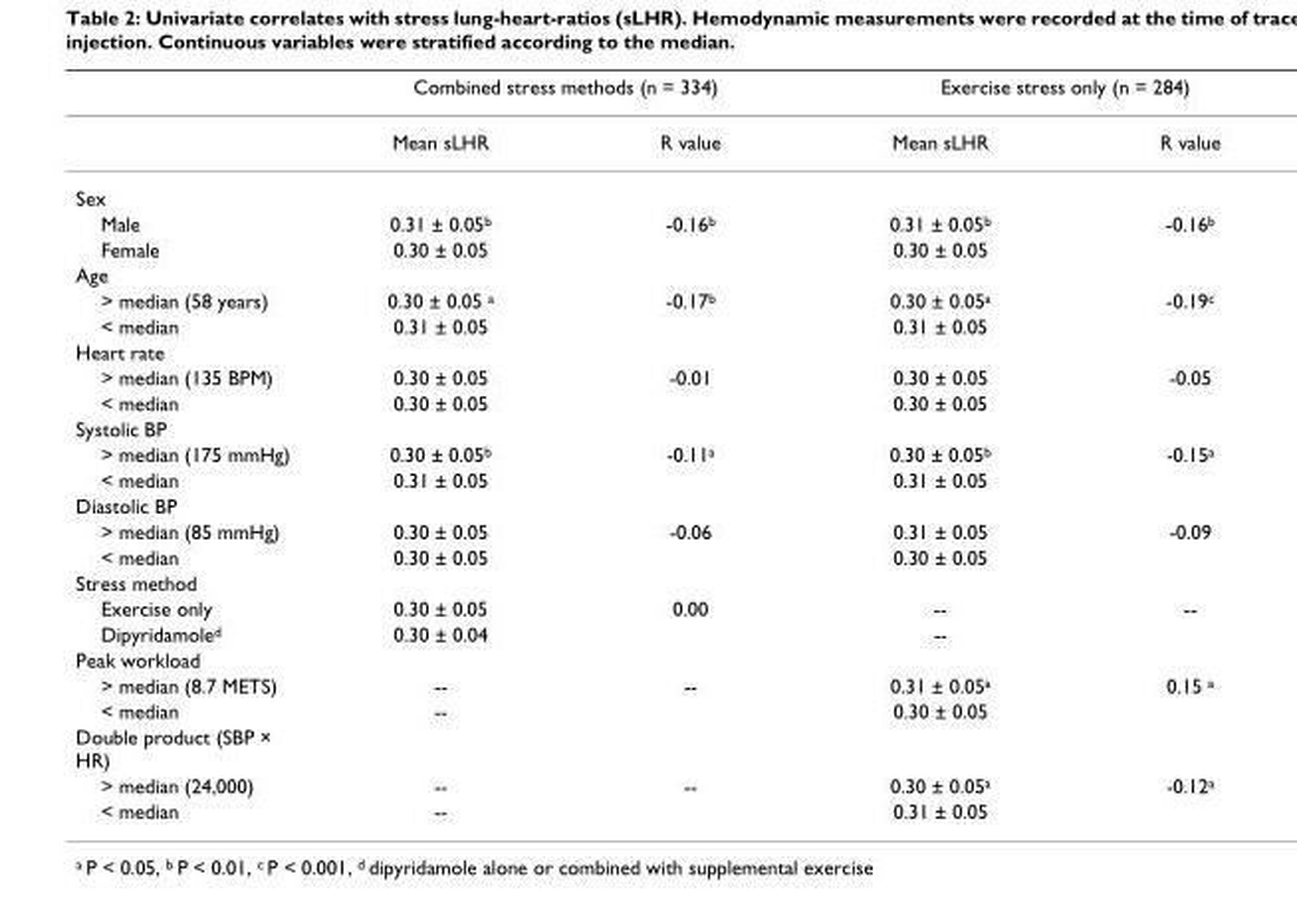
<table><thead><tr><td rowspan="2"></td><td colspan="2">Combined stress methods (n = 334)</td><td colspan="2">Exercise stress only (n = 284)</td></tr><tr><td>Mean sLHR</td><td>R value</td><td>Mean sLHR</td><td>R value</td></tr></thead><tbody><tr><td colspan="5">Sex</td></tr><tr><td>Male</td><td>0.31 ± 0.05<sup>b</sup></td><td>-0.16<sup>b</sup></td><td>0.31 ± 0.05<sup>b</sup></td><td>-0.16<sup>b</sup></td></tr><tr><td>Female</td><td>0.30 ± 0.05</td><td></td><td>0.30 ± 0.05</td><td></td></tr><tr><td colspan="5">Age</td></tr><tr><td>&gt; median (58 years)</td><td>0.30 ± 0.05 <sup>a</sup></td><td>-0.17<sup>b</sup></td><td>0.30 ± 0.05<sup>a</sup></td><td>-0.19<sup>c</sup></td></tr><tr><td>&lt; median</td><td>0.31 ± 0.05</td><td></td><td>0.31 ± 0.05</td><td></td></tr><tr><td colspan="5">Heart rate</td></tr><tr><td>&gt; median (135 BPM)</td><td>0.30 ± 0.05</td><td>-0.01</td><td>0.30 ± 0.05</td><td>-0.05</td></tr><tr><td>&lt; median</td><td>0.30 ± 0.05</td><td></td><td>0.30 ± 0.05</td><td></td></tr><tr><td colspan="5">Systolic BP</td></tr><tr><td>&gt; median (175 mmHg)</td><td>0.30 ± 0.05<sup>b</sup></td><td>-0.11<sup>a</sup></td><td>0.30 ± 0.05<sup>b</sup></td><td>-0.15<sup>a</sup></td></tr><tr><td>&lt; median</td><td>0.31 ± 0.05</td><td></td><td>0.31 ± 0.05</td><td></td></tr><tr><td colspan="5">Diastolic BP</td></tr><tr><td>&gt; median (85 mmHg)</td><td>0.30 ± 0.05</td><td>-0.06</td><td>0.31 ± 0.05</td><td>-0.09</td></tr><tr><td>&lt; median</td><td>0.30 ± 0.05</td><td></td><td>0.30 ± 0.05</td><td></td></tr><tr><td colspan="5">Stress method</td></tr><tr><td>Exercise only</td><td>0.30 ± 0.05</td><td>0.00</td><td>--</td><td>--</td></tr><tr><td>Dipyridamole<sup>d</sup></td><td>0.30 ± 0.04</td><td></td><td>--</td><td></td></tr><tr><td colspan="5">Peak workload</td></tr><tr><td>&gt; median (8.7 METS)</td><td>--</td><td>--</td><td>0.31 ± 0.05<sup>a</sup></td><td>0.15 <sup>a</sup></td></tr><tr><td>&lt; median</td><td>--</td><td></td><td>0.30 ± 0.05</td><td></td></tr><tr><td colspan="5">Double product (SBP × HR)</td></tr><tr><td>&gt; median (24,000)</td><td>--</td><td>--</td><td>0.30 ± 0.05<sup>a</sup></td><td>-0.12<sup>a</sup></td></tr><tr><td>&lt; median</td><td>--</td><td></td><td>0.31 ± 0.05</td><td></td></tr></tbody></table>